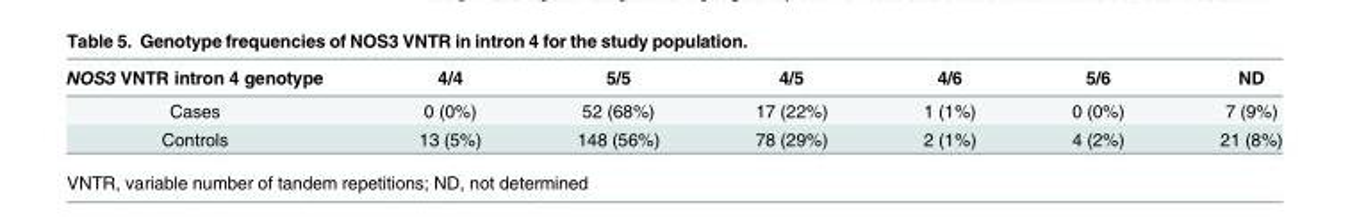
<table><thead><tr><td>NOS3 VNTR intron 4 genotype</td><td>4/4</td><td>5/5</td><td>4/5</td><td>4/6</td><td>5/6</td><td>ND</td></tr></thead><tbody><tr><td>Cases</td><td>0 (0%)</td><td>52 (68%)</td><td>17 (22%)</td><td>1 (1%)</td><td>0 (0%)</td><td>7 (9%)</td></tr><tr><td>Controls</td><td>13 (5%)</td><td>148 (56%)</td><td>78 (29%)</td><td>2 (1%)</td><td>4 (2%)</td><td>21 (8%)</td></tr></tbody></table>